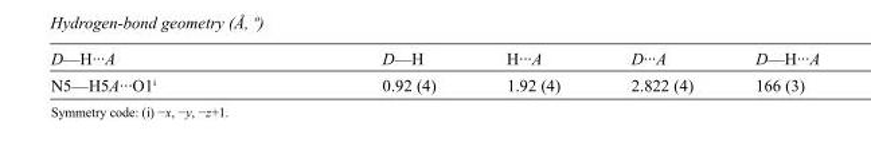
<table><tbody><tr><td>D—H···A</td><td>D—H</td><td>H···A</td><td>D···A</td><td>D—H···A</td></tr><tr><td>N5—H5A···O1<sup>i</sup></td><td>0.92 (4)</td><td>1.92 (4)</td><td>2.822 (4)</td><td>166 (3)</td></tr></tbody></table>